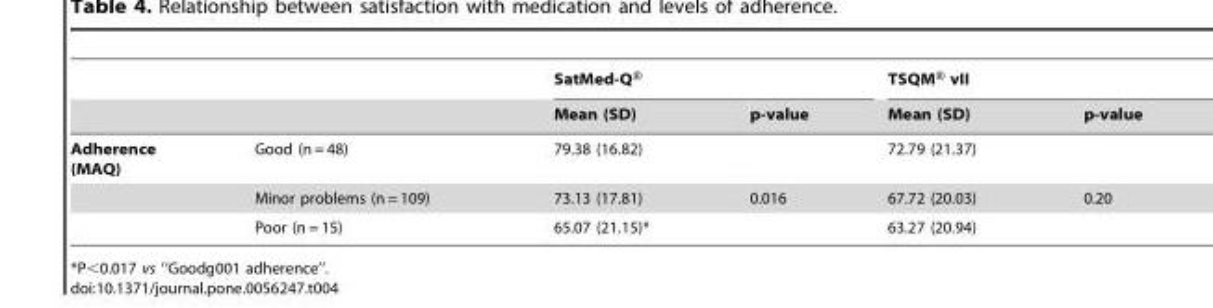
<table><thead><tr><td rowspan="2"></td><td rowspan="2"></td><td colspan="2">SatMed-Q®</td><td colspan="2">TSQM® vII</td></tr><tr><td>Mean (SD)</td><td>p-value</td><td>Mean (SD)</td><td>p-value</td></tr></thead><tbody><tr><td rowspan="3">Adherence (MAQ)</td><td>Good (n = 48)</td><td>79.38 (16.82)</td><td></td><td>72.79 (21.37)</td><td></td></tr><tr><td>Minor problems (n = 109)</td><td>73.13 (17.81)</td><td>0.016</td><td>67.72 (20.03)</td><td>0.20</td></tr><tr><td>Poor (n = 15)</td><td>65.07 (21.15)*</td><td></td><td>63.27 (20.94)</td><td></td></tr></tbody></table>